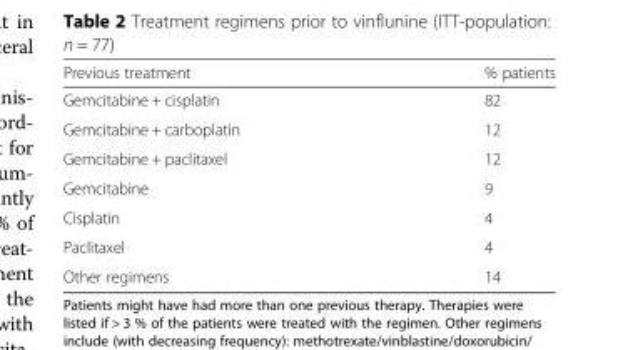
<table><thead><tr><td>Previous treatment</td><td>% patients</td></tr></thead><tbody><tr><td>Gemcitabine + cisplatin</td><td>82</td></tr><tr><td>Gemcitabine + carboplatin</td><td>12</td></tr><tr><td>Gemcitabine + paclitaxel</td><td>12</td></tr><tr><td>Gemcitabine</td><td>9</td></tr><tr><td>Cisplatin</td><td>4</td></tr><tr><td>Paclitaxel</td><td>4</td></tr><tr><td>Other regimens</td><td>14</td></tr></tbody></table>